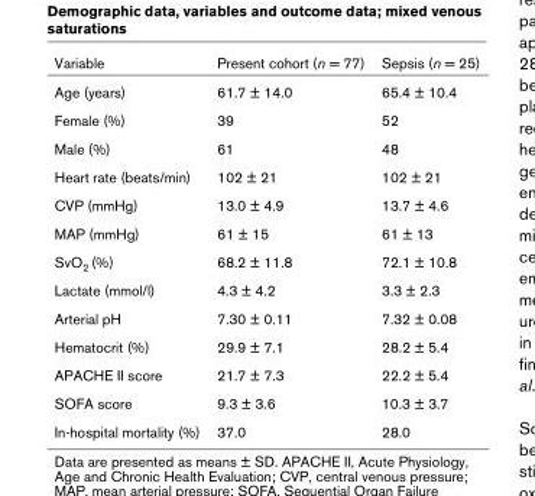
<table><thead><tr><td>Variable</td><td>Present cohort (n = 77)</td><td>Sepsis (n = 25)</td></tr></thead><tbody><tr><td>Age (years)</td><td>61.7 ± 14.0</td><td>65.4 ± 10.4</td></tr><tr><td>Female (%)</td><td>39</td><td>52</td></tr><tr><td>Male (%)</td><td>61</td><td>48</td></tr><tr><td>Heart rate (beats/min)</td><td>102 ± 21</td><td>102 ± 21</td></tr><tr><td>CVP (mmHg)</td><td>13.0 ± 4.9</td><td>13.7 ± 4.6</td></tr><tr><td>MAP (mmHg)</td><td>61 ± 15</td><td>61 ± 13</td></tr><tr><td>SvO<sub>2</sub> (%)</td><td>68.2 ± 11.8</td><td>72.1 ± 10.8</td></tr><tr><td>Lactate (mmol/l)</td><td>4.3 ± 4.2</td><td>3.3 ± 2.3</td></tr><tr><td>Arterial pH</td><td>7.30 ± 0.11</td><td>7.32 ± 0.08</td></tr><tr><td>Hematocrit (%)</td><td>29.9 ± 7.1</td><td>28.2 ± 5.4</td></tr><tr><td>APACHE II score</td><td>21.7 ± 7.3</td><td>22.2 ± 5.4</td></tr><tr><td>SOFA score</td><td>9.3 ± 3.6</td><td>10.3 ± 3.7</td></tr><tr><td>In-hospital mortality (%)</td><td>37.0</td><td>28.0</td></tr></tbody></table>